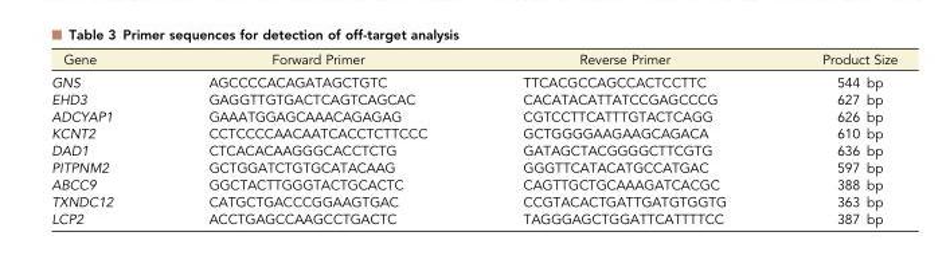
<table><thead><tr><td>Gene</td><td>Forward Primer</td><td>Reverse Primer</td><td>Product Size</td></tr></thead><tbody><tr><td>GNS</td><td>AGCCCCACAGATAGCTGTC</td><td>TTCACGCCAGCCACTCCTTC</td><td>544 bp</td></tr><tr><td>EHD3</td><td>GAGGTTGTGACTCAGTCAGCAC</td><td>CACATACATTATCCGAGCCCG</td><td>627 bp</td></tr><tr><td>ADCYAP1</td><td>GAAATGGAGCAAACAGAGAG</td><td>CGTCCTTCATTTGTACTCAGG</td><td>626 bp</td></tr><tr><td>KCNT2</td><td>CCTCCCCAACAATCACCTCTTCCC</td><td>GCTGGGGAAGAAGCAGACA</td><td>610 bp</td></tr><tr><td>DAD1</td><td>CTCACACAAGGGCACCTCTG</td><td>GATAGCTACGGGGCTTCGTG</td><td>636 bp</td></tr><tr><td>PITPNM2</td><td>GCTGGATCTGTGCATACAAG</td><td>GGGTTCATACATGCCATGAC</td><td>597 bp</td></tr><tr><td>ABCC9</td><td>GGCTACTTGGGTACTGCACTC</td><td>CAGTTGCTGCAAAGATCACGC</td><td>388 bp</td></tr><tr><td>TXNDC12</td><td>CATGCTGACCCGGAAGTGAC</td><td>CCGTACACTGATTGATGTGGTG</td><td>363 bp</td></tr><tr><td>LCP2</td><td>ACCTGAGCCAAGCCTGACTC</td><td>TAGGGAGCTGGATTCATTTTCC</td><td>387 bp</td></tr></tbody></table>